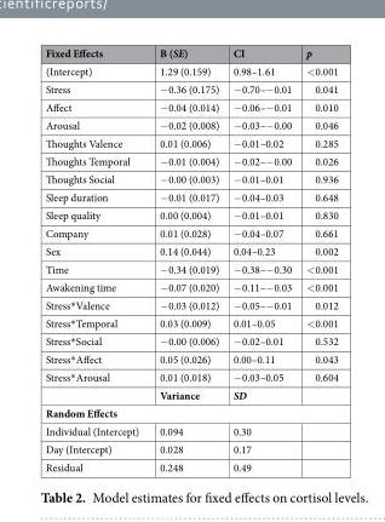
<table><thead><tr><td>Fixed Effects</td><td>B (SE)</td><td>CI</td><td>p</td></tr></thead><tbody><tr><td>(Intercept)</td><td>1.29 (0.159)</td><td>0.98–1.61</td><td>&lt;0.001</td></tr><tr><td>Stress</td><td>−0.36 (0.175)</td><td>−0.70–−0.01</td><td>0.041</td></tr><tr><td>Affect</td><td>−0.04 (0.014)</td><td>−0.06–−0.01</td><td>0.010</td></tr><tr><td>Arousal</td><td>−0.02 (0.008)</td><td>−0.03–−0.00</td><td>0.046</td></tr><tr><td>Thoughts Valence</td><td>0.01 (0.006)</td><td>−0.01–0.02</td><td>0.285</td></tr><tr><td>Thoughts Temporal</td><td>−0.01 (0.004)</td><td>−0.02–−0.00</td><td>0.026</td></tr><tr><td>Thoughts Social</td><td>−0.00 (0.003)</td><td>−0.01–0.01</td><td>0.936</td></tr><tr><td>Sleep duration</td><td>−0.01 (0.017)</td><td>−0.04–0.03</td><td>0.648</td></tr><tr><td>Sleep quality</td><td>0.00 (0.004)</td><td>−0.01–0.01</td><td>0.830</td></tr><tr><td>Company</td><td>0.01 (0.028)</td><td>−0.04–0.07</td><td>0.661</td></tr><tr><td>Sex</td><td>0.14 (0.044)</td><td>0.04–0.23</td><td>0.002</td></tr><tr><td>Time</td><td>−0.34 (0.019)</td><td>−0.38–−0.30</td><td>&lt;0.001</td></tr><tr><td>Awakening time</td><td>−0.07 (0.020)</td><td>−0.11–−0.03</td><td>&lt;0.001</td></tr><tr><td>Stress*Valence</td><td>−0.03 (0.012)</td><td>−0.05–−0.01</td><td>0.012</td></tr><tr><td>Stress*Temporal</td><td>0.03 (0.009)</td><td>0.01–0.05</td><td>&lt;0.001</td></tr><tr><td>Stress*Social</td><td>−0.00 (0.006)</td><td>−0.02–0.01</td><td>0.532</td></tr><tr><td>Stress*Affect</td><td>0.05 (0.026)</td><td>0.00–0.11</td><td>0.043</td></tr><tr><td rowspan="2">Stress*Arousal</td><td>0.01 (0.018)</td><td>−0.03–0.05</td><td>0.604</td></tr><tr><td>Variance</td><td>SD</td><td></td></tr><tr><td colspan="4">Random Effects</td></tr><tr><td>Individual (Intercept)</td><td>0.094</td><td>0.30</td><td></td></tr><tr><td>Day (Intercept)</td><td>0.028</td><td>0.17</td><td></td></tr><tr><td>Residual</td><td>0.248</td><td>0.49</td><td></td></tr></tbody></table>